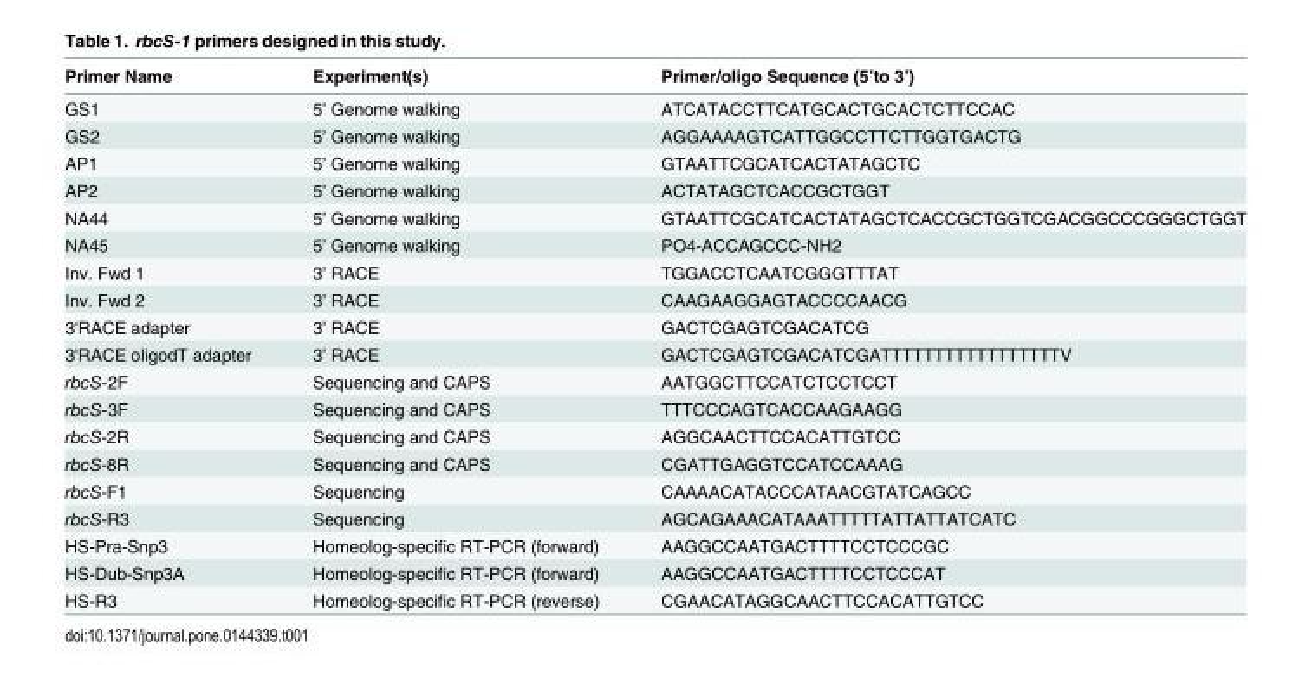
<table><thead><tr><td>Primer Name</td><td>Experiment(s)</td><td>Primer/oligo Sequence (5’to 3’)</td></tr></thead><tbody><tr><td>GS1</td><td>5’ Genome walking</td><td>ATCATACCTTCATGCACTGCACTCTTCCAC</td></tr><tr><td>GS2</td><td>5’ Genome walking</td><td>AGGAAAAGTCATTGGCCTTCTTGGTGACTG</td></tr><tr><td>AP1</td><td>5’ Genome walking</td><td>GTAATTCGCATCACTATAGCTC</td></tr><tr><td>AP2</td><td>5’ Genome walking</td><td>ACTATAGCTCACCGCTGGT</td></tr><tr><td>NA44</td><td>5’ Genome walking</td><td>GTAATTCGCATCACTATAGCTCACCGCTGGTCGACGGCCCGGGCTGGT</td></tr><tr><td>NA45</td><td>5’ Genome walking</td><td>PO4-ACCAGCCC-NH2</td></tr><tr><td>Inv. Fwd 1</td><td>3’ RACE</td><td>TGGACCTCAATCGGGTTTAT</td></tr><tr><td>Inv. Fwd 2</td><td>3’ RACE</td><td>CAAGAAGGAGTACCCCAACG</td></tr><tr><td>3&#x27;RACE adapter</td><td>3’ RACE</td><td>GACTCGAGTCGACATCG</td></tr><tr><td>3&#x27;RACE oligodT adapter</td><td>3’ RACE</td><td>GACTCGAGTCGACATCGATTTTTTTTTTTTTTTTTV</td></tr><tr><td>rbcS-2F</td><td>Sequencing and CAPS</td><td>AATGGCTTCCATCTCCTCCT</td></tr><tr><td>rbcS-3F</td><td>Sequencing and CAPS</td><td>TTTCCCAGTCACCAAGAAGG</td></tr><tr><td>rbcS-2R</td><td>Sequencing and CAPS</td><td>AGGCAACTTCCACATTGTCC</td></tr><tr><td>rbcS-8R</td><td>Sequencing and CAPS</td><td>CGATTGAGGTCCATCCAAAG</td></tr><tr><td>rbcS-F1</td><td>Sequencing</td><td>CAAAACATACCCATAACGTATCAGCC</td></tr><tr><td>rbcS-R3</td><td>Sequencing</td><td>AGCAGAAACATAAATTTTTATTATTATCATC</td></tr><tr><td>HS-Pra-Snp3</td><td>Homeolog-specific RT-PCR (forward)</td><td>AAGGCCAATGACTTTTCCTCCCGC</td></tr><tr><td>HS-Dub-Snp3A</td><td>Homeolog-specific RT-PCR (forward)</td><td>AAGGCCAATGACTTTTCCTCCCAT</td></tr><tr><td>HS-R3</td><td>Homeolog-specific RT-PCR (reverse)</td><td>CGAACATAGGCAACTTCCACATTGTCC</td></tr></tbody></table>